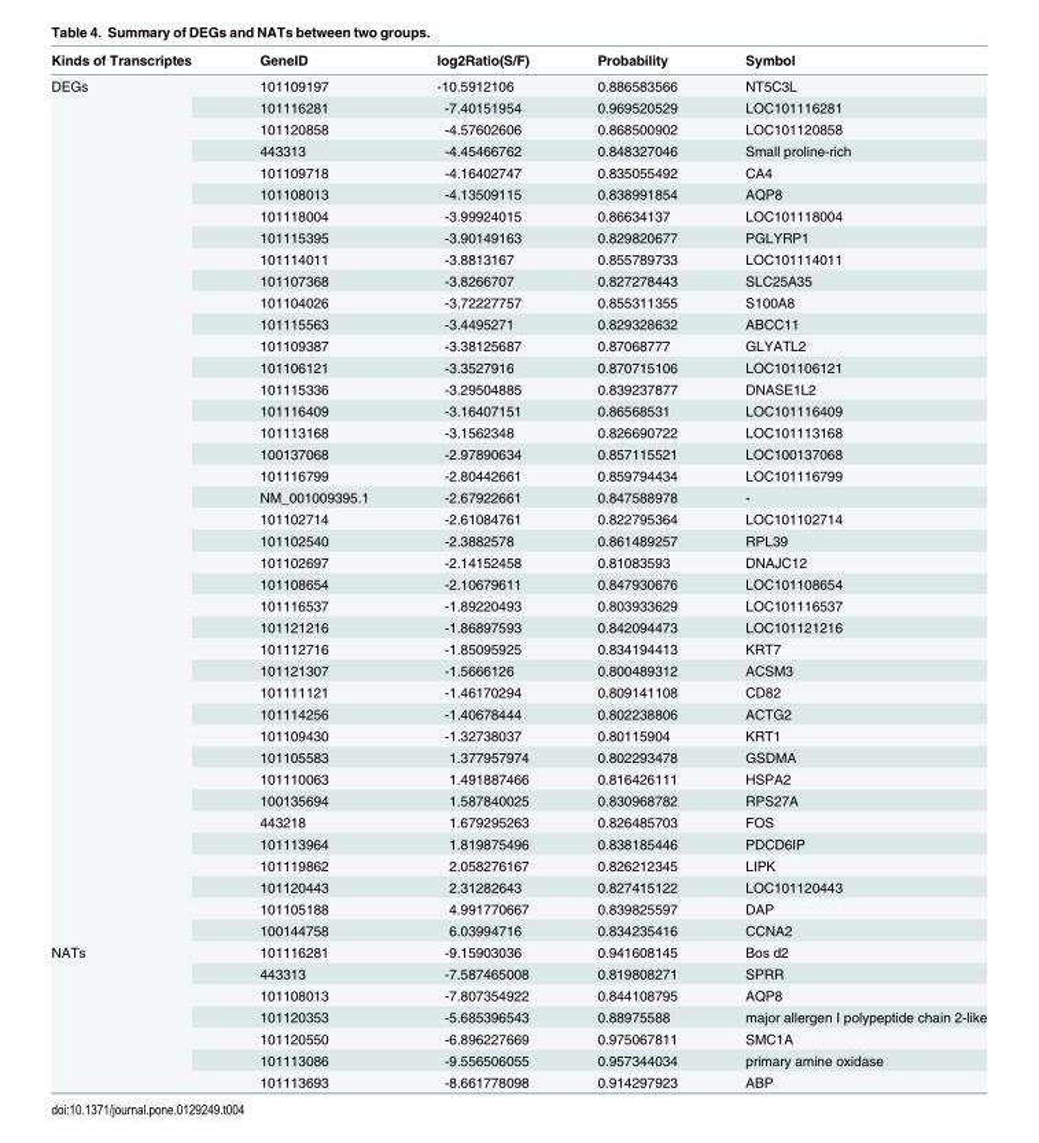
<table><thead><tr><td>Kinds of Transcriptes</td><td>GeneID</td><td>log2Ratio(S/F)</td><td>Probability</td><td>Symbol</td></tr></thead><tbody><tr><td rowspan="40">DEGs</td><td>101109197</td><td>-10.5912106</td><td>0.886583566</td><td>NT5C3L</td></tr><tr><td>101116281</td><td>-7.40151954</td><td>0.969520529</td><td>LOC101116281</td></tr><tr><td>101120858</td><td>-4.57602606</td><td>0.868500902</td><td>LOC101120858</td></tr><tr><td>443313</td><td>-4.45466762</td><td>0.848327046</td><td>Small proline-rich</td></tr><tr><td>101109718</td><td>-4.16402747</td><td>0.835055492</td><td>CA4</td></tr><tr><td>101108013</td><td>-4.13509115</td><td>0.838991854</td><td>AQP8</td></tr><tr><td>101118004</td><td>-3.99924015</td><td>0.86634137</td><td>LOC101118004</td></tr><tr><td>101115395</td><td>-3.90149163</td><td>0.829820677</td><td>PGLYRP1</td></tr><tr><td>101114011</td><td>-3.8813167</td><td>0.855789733</td><td>LOC101114011</td></tr><tr><td>101107368</td><td>-3.8266707</td><td>0.827278443</td><td>SLC25A35</td></tr><tr><td>101104026</td><td>-3.72227757</td><td>0.855311355</td><td>S100A8</td></tr><tr><td>101115563</td><td>-3.4495271</td><td>0.829328632</td><td>ABCC11</td></tr><tr><td>101109387</td><td>-3.38125687</td><td>0.87068777</td><td>GLYATL2</td></tr><tr><td>101106121</td><td>-3.3527916</td><td>0.870715106</td><td>LOC101106121</td></tr><tr><td>101115336</td><td>-3.29504885</td><td>0.839237877</td><td>DNASE1L2</td></tr><tr><td>101116409</td><td>-3.16407151</td><td>0.86568531</td><td>LOC101116409</td></tr><tr><td>101113168</td><td>-3.1562348</td><td>0.826690722</td><td>LOC101113168</td></tr><tr><td>100137068</td><td>-2.97890634</td><td>0.857115521</td><td>LOC100137068</td></tr><tr><td>101116799</td><td>-2.80442661</td><td>0.859794434</td><td>LOC101116799</td></tr><tr><td>NM_001009395.1</td><td>-2.67922661</td><td>0.847588978</td><td>-</td></tr><tr><td>101102714</td><td>-2.61084761</td><td>0.822795364</td><td>LOC101102714</td></tr><tr><td>101102540</td><td>-2.3882578</td><td>0.861489257</td><td>RPL39</td></tr><tr><td>101102697</td><td>-2.14152458</td><td>0.81083593</td><td>DNAJC12</td></tr><tr><td>101108654</td><td>-2.10679611</td><td>0.847930676</td><td>LOC101108654</td></tr><tr><td>101116537</td><td>-1.89220493</td><td>0.803933629</td><td>LOC101116537</td></tr><tr><td>101121216</td><td>-1.86897593</td><td>0.842094473</td><td>LOC101121216</td></tr><tr><td>101112716</td><td>-1.85095925</td><td>0.834194413</td><td>KRT7</td></tr><tr><td>101121307</td><td>-1.5666126</td><td>0.800489312</td><td>ACSM3</td></tr><tr><td>101111121</td><td>-1.46170294</td><td>0.809141108</td><td>CD82</td></tr><tr><td>101114256</td><td>-1.40678444</td><td>0.802238806</td><td>ACTG2</td></tr><tr><td>101109430</td><td>-1.32738037</td><td>0.80115904</td><td>KRT1</td></tr><tr><td>101105583</td><td>1.377957974</td><td>0.802293478</td><td>GSDMA</td></tr><tr><td>101110063</td><td>1.491887466</td><td>0.816426111</td><td>HSPA2</td></tr><tr><td>100135694</td><td>1.587840025</td><td>0.830968782</td><td>RPS27A</td></tr><tr><td>443218</td><td>1.679295263</td><td>0.826485703</td><td>FOS</td></tr><tr><td>101113964</td><td>1.819875496</td><td>0.838185446</td><td>PDCD6IP</td></tr><tr><td>101119862</td><td>2.058276167</td><td>0.826212345</td><td>LIPK</td></tr><tr><td>101120443</td><td>2.31282643</td><td>0.827415122</td><td>LOC101120443</td></tr><tr><td>101105188</td><td>4.991770667</td><td>0.839825597</td><td>DAP</td></tr><tr><td>100144758</td><td>6.03994716</td><td>0.834235416</td><td>CCNA2</td></tr><tr><td rowspan="7">NATs</td><td>101116281</td><td>-9.15903036</td><td>0.941608145</td><td>Bos d2</td></tr><tr><td>443313</td><td>-7.587465008</td><td>0.819808271</td><td>SPRR</td></tr><tr><td>101108013</td><td>-7.807354922</td><td>0.844108795</td><td>AQP8</td></tr><tr><td>101120353</td><td>-5.685396543</td><td>0.88975588</td><td>major allergen I polypeptide chain 2-like</td></tr><tr><td>101120550</td><td>-6.896227669</td><td>0.975067811</td><td>SMC1A</td></tr><tr><td>101113086</td><td>-9.556506055</td><td>0.957344034</td><td>primary amine oxidase</td></tr><tr><td>101113693</td><td>-8.661778098</td><td>0.914297923</td><td>ABP</td></tr></tbody></table>